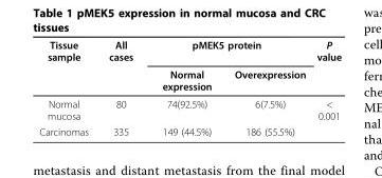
<table><thead><tr><td rowspan="2">Tissue sample</td><td rowspan="2">All cases</td><td colspan="2">pMEK5 protein</td><td rowspan="2">P value</td></tr><tr><td>Normal expression</td><td>Overexpression</td></tr></thead><tbody><tr><td>Normal mucosa</td><td>80</td><td>74(92.5%)</td><td>6(7.5%)</td><td>&lt; 0.001</td></tr><tr><td>Carcinomas</td><td>335</td><td>149 (44.5%)</td><td>186 (55.5%)</td><td></td></tr></tbody></table>